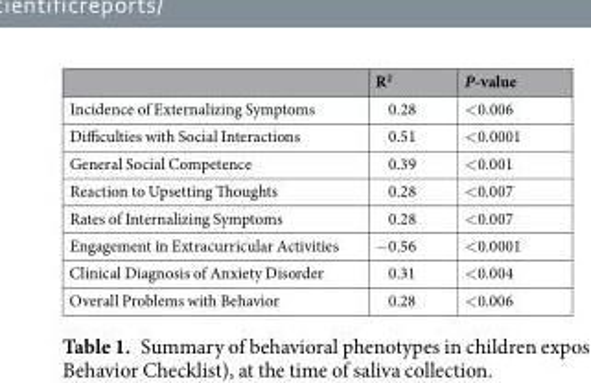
<table><thead><tr><td></td><td>R<sup>2</sup></td><td>P-value</td></tr></thead><tbody><tr><td>Incidence of Externalizing Symptoms</td><td>0.28</td><td>&lt;0.006</td></tr><tr><td>Difficulties with Social Interactions</td><td>0.51</td><td>&lt;0.0001</td></tr><tr><td>General Social Competence</td><td>0.39</td><td>&lt;0.001</td></tr><tr><td>Reaction to Upsetting Thoughts</td><td>0.28</td><td>&lt;0.007</td></tr><tr><td>Rates of Internalizing Symptoms</td><td>0.28</td><td>&lt;0.007</td></tr><tr><td>Engagement in Extracurricular Activities</td><td>−0.56</td><td>&lt;0.0001</td></tr><tr><td>Clinical Diagnosis of Anxiety Disorder</td><td>0.31</td><td>&lt;0.004</td></tr><tr><td>Overall Problems with Behavior</td><td>0.28</td><td>&lt;0.006</td></tr></tbody></table>